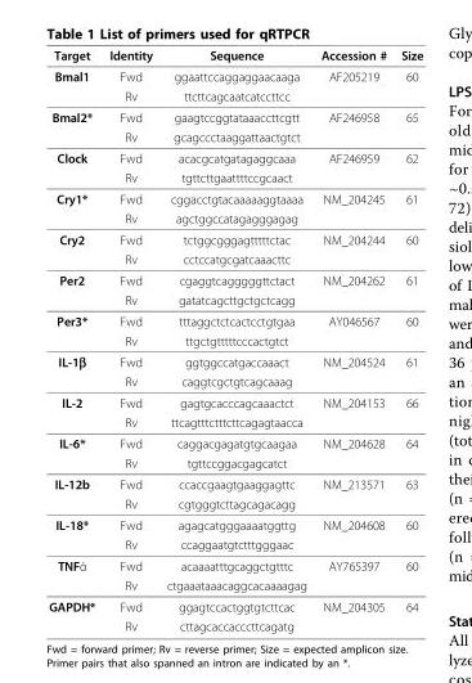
<table><thead><tr><td>Target</td><td>Identity</td><td>Sequence</td><td>Accession #</td><td>Size</td></tr></thead><tbody><tr><td rowspan="2">Bmal1</td><td>Fwd</td><td>ggaattccaggaggaacaaga</td><td>AF205219</td><td>60</td></tr><tr><td>Rv</td><td>ttcttcagcaatcatccttcc</td><td></td><td></td></tr><tr><td rowspan="2">Bmal2*</td><td>Fwd</td><td>gaagtccggtataaaccttcgtt</td><td>AF246958</td><td>65</td></tr><tr><td>Rv</td><td>gcagccctaaggattaactgtct</td><td></td><td></td></tr><tr><td rowspan="2">Clock</td><td>Fwd</td><td>acacgcatgatagaggcaaa</td><td>AF246959</td><td>62</td></tr><tr><td>Rv</td><td>tgttcttgaattttccgcaact</td><td></td><td></td></tr><tr><td rowspan="2">Cry1*</td><td>Fwd</td><td>cggacctgtacaaaaaggtaaaa</td><td>NM_204245</td><td>61</td></tr><tr><td>Rv</td><td>agctggccatagagggagag</td><td></td><td></td></tr><tr><td rowspan="2">Cry2</td><td>Fwd</td><td>tctggcgggagtttttctac</td><td>NM_204244</td><td>60</td></tr><tr><td>Rv</td><td>cctccatgcgatcaaacttc</td><td></td><td></td></tr><tr><td rowspan="2">Per2</td><td>Fwd</td><td>cgaggtcagggggttctact</td><td>NM_204262</td><td>61</td></tr><tr><td>Rv</td><td>gatatcagcttgctgctcagg</td><td></td><td></td></tr><tr><td rowspan="2">Per3*</td><td>Fwd</td><td>tttaggctctcactcctgtgaa</td><td>AY046567</td><td>60</td></tr><tr><td>Rv</td><td>ttgctgtttttcccactgtct</td><td></td><td></td></tr><tr><td rowspan="2">IL-1β</td><td>Fwd</td><td>ggtggccatgaccaaact</td><td>NM_204524</td><td>61</td></tr><tr><td>Rv</td><td>caggtcgctgtcagcaaag</td><td></td><td></td></tr><tr><td rowspan="2">IL-2</td><td>Fwd</td><td>gagtgcacccagcaaactct</td><td>NM_204153</td><td>66</td></tr><tr><td>Rv</td><td>ttcagtttctttcttcagagtaacca</td><td></td><td></td></tr><tr><td rowspan="2">IL-6*</td><td>Fwd</td><td>caggacgagatgtgcaagaa</td><td>NM_204628</td><td>64</td></tr><tr><td>Rv</td><td>tgttccggacgagcatct</td><td></td><td></td></tr><tr><td rowspan="2">IL-12b</td><td>Fwd</td><td>ccaccgaagtgaaggagttc</td><td>NM_213571</td><td>63</td></tr><tr><td>Rv</td><td>cgtgggtcttagcagacagg</td><td></td><td></td></tr><tr><td rowspan="2">IL-18*</td><td>Fwd</td><td>agagcatgggaaaatggttg</td><td>NM_204608</td><td>60</td></tr><tr><td>Rv</td><td>ccaggaatgtctttgggaac</td><td></td><td></td></tr><tr><td rowspan="2">TNFά</td><td>Fwd</td><td>acaaaatttgcaggctgtttc</td><td>AY765397</td><td>60</td></tr><tr><td>Rv</td><td>ctgaaataaacaggcacaaaagag</td><td></td><td></td></tr><tr><td rowspan="2">GAPDH*</td><td>Fwd</td><td>ggagtccactggtgtcttcac</td><td>NM_204305</td><td>64</td></tr><tr><td>Rv</td><td>cttagcaccacccttcagatg</td><td></td><td></td></tr></tbody></table>